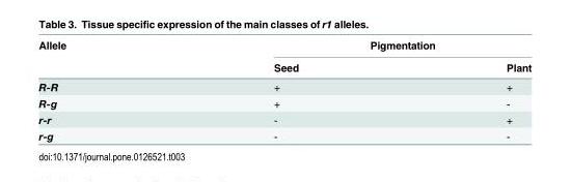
<table><thead><tr><td rowspan="2">Allele</td><td colspan="2">Pigmentation</td></tr><tr><td>Seed</td><td>Plant</td></tr></thead><tbody><tr><td>R-R</td><td>+</td><td>+</td></tr><tr><td>R-g</td><td>+</td><td>-</td></tr><tr><td>r-r</td><td>-</td><td>+</td></tr><tr><td>r-g</td><td>-</td><td>-</td></tr></tbody></table>